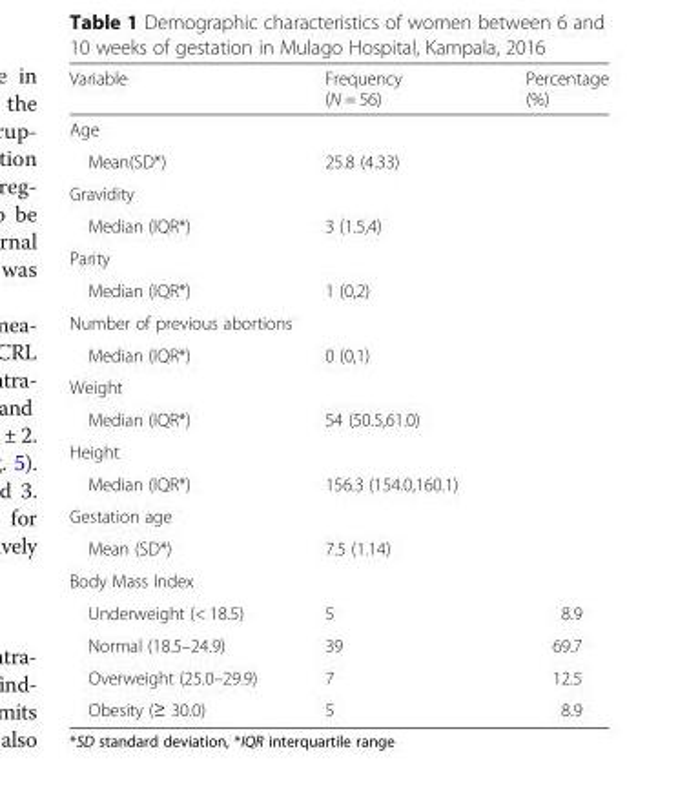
<table><thead><tr><td>Variable</td><td>Frequency (N = 56)</td><td>Percentage (%)</td></tr></thead><tbody><tr><td colspan="3">Age</td></tr><tr><td>Mean(SD*)</td><td>25.8 (4.33)</td><td></td></tr><tr><td colspan="3">Gravidity</td></tr><tr><td>Median (IQR*)</td><td>3 (1.5,4)</td><td></td></tr><tr><td colspan="3">Parity</td></tr><tr><td>Median (IQR*)</td><td>1 (0,2)</td><td></td></tr><tr><td colspan="3">Number of previous abortions</td></tr><tr><td>Median (IQR*)</td><td>0 (0,1)</td><td></td></tr><tr><td colspan="3">Weight</td></tr><tr><td>Median (IQR*)</td><td>54 (50.5,61.0)</td><td></td></tr><tr><td colspan="3">Height</td></tr><tr><td>Median (IQR*)</td><td>156.3 (154.0,160.1)</td><td></td></tr><tr><td colspan="3">Gestation age</td></tr><tr><td>Mean (SD*)</td><td>7.5 (1.14)</td><td></td></tr><tr><td colspan="3">Body Mass Index</td></tr><tr><td>Underweight (&lt; 18.5)</td><td>5</td><td>8.9</td></tr><tr><td>Normal (18.5–24.9)</td><td>39</td><td>69.7</td></tr><tr><td>Overweight (25.0–29.9)</td><td>7</td><td>12.5</td></tr><tr><td>Obesity (≥ 30.0)</td><td>5</td><td>8.9</td></tr></tbody></table>